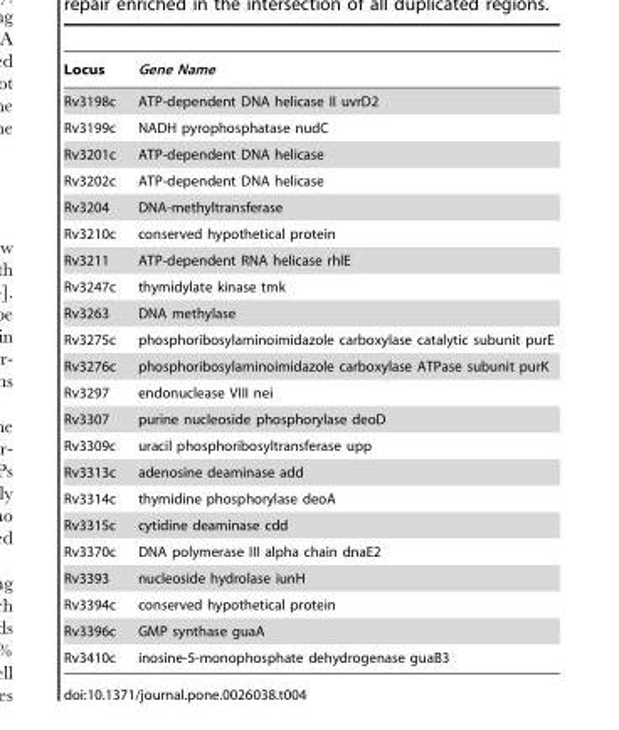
<table><thead><tr><td>Locus</td><td>Gene Name</td></tr></thead><tbody><tr><td>Rv3198c</td><td>ATP-dependent DNA helicase II uvrD2</td></tr><tr><td>Rv3199c</td><td>NADH pyrophosphatase nudC</td></tr><tr><td>Rv3201c</td><td>ATP-dependent DNA helicase</td></tr><tr><td>Rv3202c</td><td>ATP-dependent DNA helicase</td></tr><tr><td>Rv3204</td><td>DNA-methyltransferase</td></tr><tr><td>Rv3210c</td><td>conserved hypothetical protein</td></tr><tr><td>Rv3211</td><td>ATP-dependent RNA helicase rhlE</td></tr><tr><td>Rv3247c</td><td>thymidylate kinase tmk</td></tr><tr><td>Rv3263</td><td>DNA methylase</td></tr><tr><td>Rv3275c</td><td>phosphoribosylaminoimidazole carboxylase catalytic subunit purE</td></tr><tr><td>Rv3276c</td><td>phosphoribosylaminoimidazole carboxylase ATPase subunit purK</td></tr><tr><td>Rv3297</td><td>endonuclease VIII nei</td></tr><tr><td>Rv3307</td><td>purine nucleoside phosphorylase deoD</td></tr><tr><td>Rv3309c</td><td>uracil phosphoribosyltransferase upp</td></tr><tr><td>Rv3313c</td><td>adenosine deaminase add</td></tr><tr><td>Rv3314c</td><td>thymidine phosphorylase deoA</td></tr><tr><td>Rv3315c</td><td>cytidine deaminase cdd</td></tr><tr><td>Rv3370c</td><td>DNA polymerase III alpha chain dnaE2</td></tr><tr><td>Rv3393</td><td>nucleoside hydrolase iunH</td></tr><tr><td>Rv3394c</td><td>conserved hypothetical protein</td></tr><tr><td>Rv3396c</td><td>GMP synthase guaA</td></tr><tr><td>Rv3410c</td><td>inosine-5-monophosphate dehydrogenase guaB3</td></tr></tbody></table>